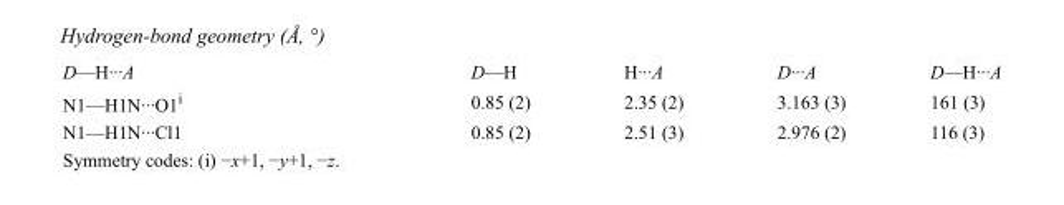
<table><tbody><tr><td>D—H···A</td><td>D—H</td><td>H···A</td><td>D···A</td><td>D—H···A</td></tr><tr><td>N1—H1N···O1<sup>i</sup></td><td>0.85 (2)</td><td>2.35 (2)</td><td>3.163 (3)</td><td>161 (3)</td></tr><tr><td>N1—H1N···Cl1</td><td>0.85 (2)</td><td>2.51 (3)</td><td>2.976 (2)</td><td>116 (3)</td></tr></tbody></table>